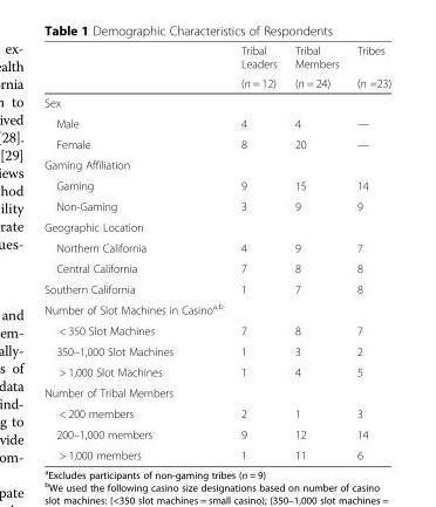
<table><thead><tr><td rowspan="2"></td><td rowspan="2">Tribal Leaders (n = 12)</td><td rowspan="2">Tribal Members (n = 24)</td><td rowspan="2">Tribes (n =23)</td></tr><tr></tr></thead><tbody><tr><td colspan="4">Sex</td></tr><tr><td>Male</td><td>4</td><td>4</td><td>—</td></tr><tr><td>Female</td><td>8</td><td>20</td><td>—</td></tr><tr><td colspan="4">Gaming Affiliation</td></tr><tr><td>Gaming</td><td>9</td><td>15</td><td>14</td></tr><tr><td>Non-Gaming</td><td>3</td><td>9</td><td>9</td></tr><tr><td colspan="4">Geographic Location</td></tr><tr><td>Northern California</td><td>4</td><td>9</td><td>7</td></tr><tr><td>Central California</td><td>7</td><td>8</td><td>8</td></tr><tr><td>Southern California</td><td>1</td><td>7</td><td>8</td></tr><tr><td colspan="4">Number of Slot Machines in Casino<sup>a,b</sup></td></tr><tr><td>&lt; 350 Slot Machines</td><td>7</td><td>8</td><td>7</td></tr><tr><td>350–1,000 Slot Machines</td><td>1</td><td>3</td><td>2</td></tr><tr><td>&gt; 1,000 Slot Machines</td><td>1</td><td>4</td><td>5</td></tr><tr><td colspan="4">Number of Tribal Members</td></tr><tr><td>&lt; 200 members</td><td>2</td><td>1</td><td>3</td></tr><tr><td>200–1,000 members</td><td>9</td><td>12</td><td>14</td></tr><tr><td>&gt; 1,000 members</td><td>1</td><td>11</td><td>6</td></tr></tbody></table>